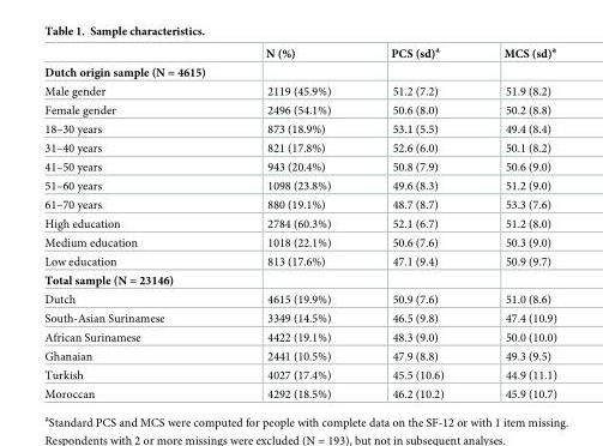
<table><thead><tr><td></td><td>N (%)</td><td>PCS (sd)<sup>a</sup></td><td>MCS (sd)<sup>a</sup></td></tr></thead><tbody><tr><td colspan="4">Dutch origin sample (N = 4615)</td></tr><tr><td>Male gender</td><td>2119 (45.9%)</td><td>51.2 (7.2)</td><td>51.9 (8.2)</td></tr><tr><td>Female gender</td><td>2496 (54.1%)</td><td>50.6 (8.0)</td><td>50.2 (8.8)</td></tr><tr><td>18–30 years</td><td>873 (18.9%)</td><td>53.1 (5.5)</td><td>49.4 (8.4)</td></tr><tr><td>31–40 years</td><td>821 (17.8%)</td><td>52.6 (6.0)</td><td>50.1 (8.2)</td></tr><tr><td>41–50 years</td><td>943 (20.4%)</td><td>50.8 (7.9)</td><td>50.6 (9.0)</td></tr><tr><td>51–60 years</td><td>1098 (23.8%)</td><td>49.6 (8.3)</td><td>51.2 (9.0)</td></tr><tr><td>61–70 years</td><td>880 (19.1%)</td><td>48.7 (8.7)</td><td>53.3 (7.6)</td></tr><tr><td>High education</td><td>2784 (60.3%)</td><td>52.1 (6.7)</td><td>51.2 (8.0)</td></tr><tr><td>Medium education</td><td>1018 (22.1%)</td><td>50.6 (7.6)</td><td>50.3 (9.0)</td></tr><tr><td>Low education</td><td>813 (17.6%)</td><td>47.1 (9.4)</td><td>50.9 (9.7)</td></tr><tr><td colspan="4">Total sample (N = 23146)</td></tr><tr><td>Dutch</td><td>4615 (19.9%)</td><td>50.9 (7.6)</td><td>51.0 (8.6)</td></tr><tr><td>South-Asian Surinamese</td><td>3349 (14.5%)</td><td>46.5 (9.8)</td><td>47.4 (10.9)</td></tr><tr><td>African Surinamese</td><td>4422 (19.1%)</td><td>48.3 (9.0)</td><td>50.0 (10.0)</td></tr><tr><td>Ghanaian</td><td>2441 (10.5%)</td><td>47.9 (8.8)</td><td>49.3 (9.5)</td></tr><tr><td>Turkish</td><td>4027 (17.4%)</td><td>45.5 (10.6)</td><td>44.9 (11.1)</td></tr><tr><td>Moroccan</td><td>4292 (18.5%)</td><td>46.2 (10.2)</td><td>45.9 (10.7)</td></tr></tbody></table>